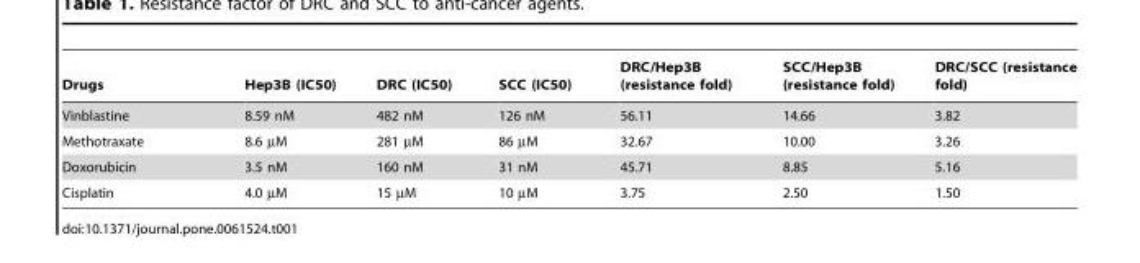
<table><thead><tr><td>Drugs</td><td>Hep3B (IC50)</td><td>DRC (IC50)</td><td>SCC (IC50)</td><td>DRC/Hep3B (resistance fold)</td><td>SCC/Hep3B (resistance fold)</td><td>DRC/SCC (resistance fold)</td></tr></thead><tbody><tr><td>Vinblastine</td><td>8.59 nM</td><td>482 nM</td><td>126 nM</td><td>56.11</td><td>14.66</td><td>3.82</td></tr><tr><td>Methotraxate</td><td>8.6 µM</td><td>281 µM</td><td>86 µM</td><td>32.67</td><td>10.00</td><td>3.26</td></tr><tr><td>Doxorubicin</td><td>3.5 nM</td><td>160 nM</td><td>31 nM</td><td>45.71</td><td>8.85</td><td>5.16</td></tr><tr><td>Cisplatin</td><td>4.0 µM</td><td>15 µM</td><td>10 µM</td><td>3.75</td><td>2.50</td><td>1.50</td></tr></tbody></table>